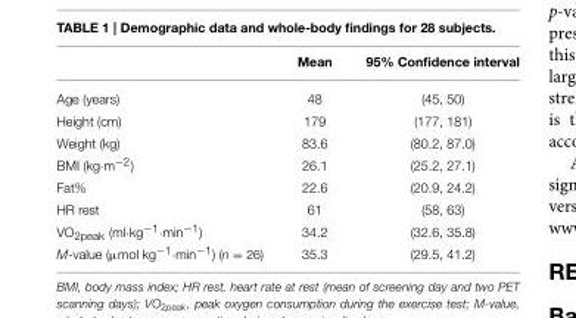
<table><thead><tr><td></td><td>Mean</td><td>95% Confidence interval</td></tr></thead><tbody><tr><td>Age (years)</td><td>48</td><td>(45, 50)</td></tr><tr><td>Height (cm)</td><td>179</td><td>(177, 181)</td></tr><tr><td>Weight (kg)</td><td>83.6</td><td>(80.2, 87.0)</td></tr><tr><td>BMI (kg·m<sup>−2</sup>)</td><td>26.1</td><td>(25.2, 27.1)</td></tr><tr><td>Fat%</td><td>22.6</td><td>(20.9, 24.2)</td></tr><tr><td>HR rest</td><td>61</td><td>(58, 63)</td></tr><tr><td>VO<sub>2peak</sub> (ml·kg<sup>−1</sup>·min<sup>−1</sup>)</td><td>34.2</td><td>(32.6, 35.8)</td></tr><tr><td>M-value (µmol kg<sup>−1</sup>·min<sup>−1</sup>) (n = 26)</td><td>35.3</td><td>(29.5, 41.2)</td></tr></tbody></table>